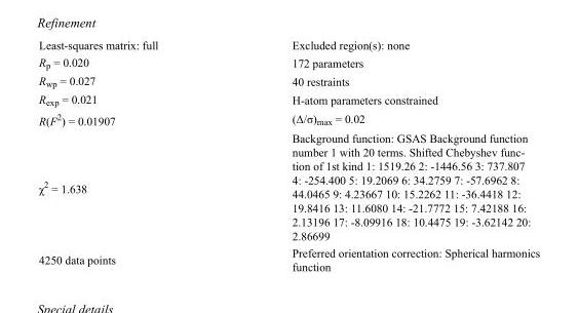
<table><tbody><tr><td>Least-squares matrix: full</td><td>Excluded region(s): none</td></tr><tr><td>R<sub>p</sub> = 0.020</td><td>172 parameters</td></tr><tr><td>R<sub>wp</sub> = 0.027</td><td>40 restraints</td></tr><tr><td>R<sub>exp</sub> = 0.021</td><td>H-atom parameters constrained</td></tr><tr><td>R(F<sup>2</sup>) = 0.01907</td><td>(Δ/σ)<sub>max</sub> = 0.02</td></tr><tr><td>χ<sup>2</sup> = 1.638</td><td>Background function: GSAS Background function number 1 with 20 terms. Shifted Chebyshev func- tion of 1st kind 1: 1519.26 2: -1446.56 3: 737.807 4: -254.400 5: 19.2069 6: 34.2759 7: -57.6962 8: 44.0465 9: 4.23667 10: 15.2262 11: -36.4418 12: 19.8416 13: 11.6080 14: -21.7772 15: 7.42188 16: 2.13196 17: -8.09916 18: 10.4475 19: -3.62142 20: 2.86699</td></tr><tr><td>4250 data points</td><td>Preferred orientation correction: Spherical harmonics function</td></tr></tbody></table>